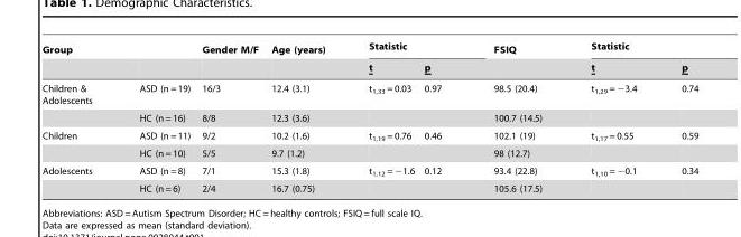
<table><thead><tr><td rowspan="2">Group</td><td rowspan="2"></td><td rowspan="2">Gender M/F</td><td rowspan="2">Age (years)</td><td colspan="2">Statistic</td><td rowspan="2">FSIQ</td><td colspan="2">Statistic</td></tr><tr><td>t</td><td>p</td><td>t</td><td>p</td></tr></thead><tbody><tr><td rowspan="2">Children &amp; Adolescents</td><td>ASD (n = 19)</td><td>16/3</td><td>12.4 (3.1)</td><td>t<sub>1,33</sub> = 0.03</td><td>0.97</td><td>98.5 (20.4)</td><td>t<sub>1,29</sub> = −3.4</td><td>0.74</td></tr><tr><td>HC (n = 16)</td><td>8/8</td><td>12.3 (3.6)</td><td></td><td></td><td>100.7 (14.5)</td><td></td><td></td></tr><tr><td rowspan="2">Children</td><td>ASD (n = 11)</td><td>9/2</td><td>10.2 (1.6)</td><td>t<sub>1,19</sub> = 0.76</td><td>0.46</td><td>102.1 (19)</td><td>t<sub>1,17</sub> = 0.55</td><td>0.59</td></tr><tr><td>HC (n = 10)</td><td>5/5</td><td>9.7 (1.2)</td><td></td><td></td><td>98 (12.7)</td><td></td><td></td></tr><tr><td rowspan="2">Adolescents</td><td>ASD (n = 8)</td><td>7/1</td><td>15.3 (1.8)</td><td>t<sub>1,12</sub> = −1.6</td><td>0.12</td><td>93.4 (22.8)</td><td>t<sub>1,10</sub> = −0.1</td><td>0.34</td></tr><tr><td>HC (n = 6)</td><td>2/4</td><td>16.7 (0.75)</td><td></td><td></td><td>105.6 (17.5)</td><td></td><td></td></tr></tbody></table>